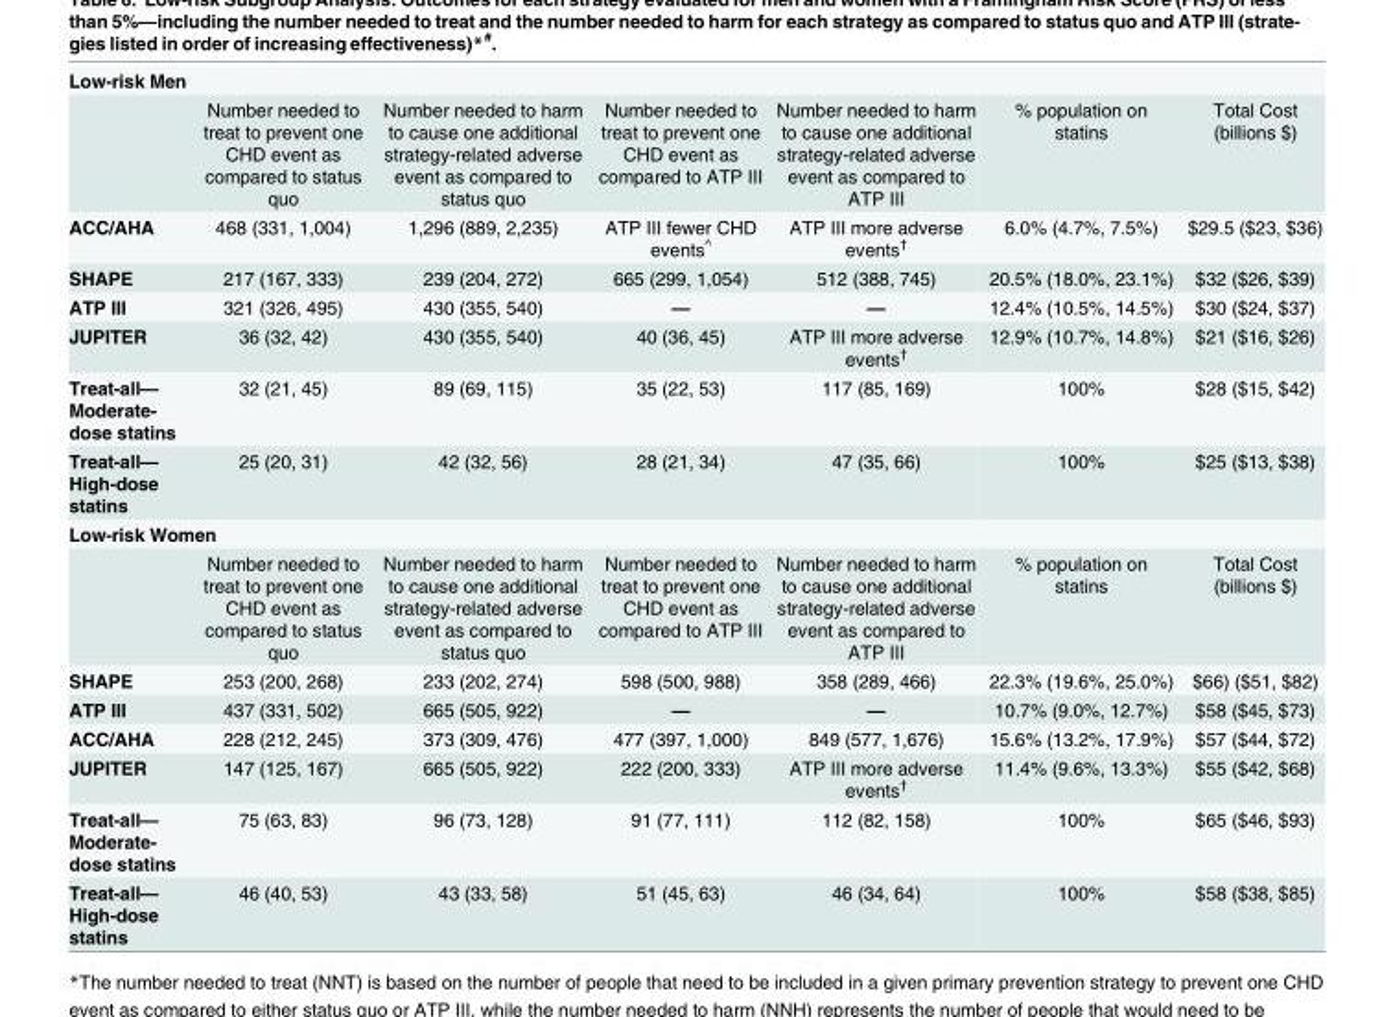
<table><tbody><tr><td colspan="7">Low-risk Men</td></tr><tr><td></td><td>Number needed to treat to prevent one CHD event as compared to status quo</td><td>Number needed to harm to cause one additional strategy-related adverse event as compared to status quo</td><td>Number needed to treat to prevent one CHD event as compared to ATP III</td><td>Number needed to harm to cause one additional strategy-related adverse event as compared to ATP III</td><td>% population on statins</td><td>Total Cost (billions $)</td></tr><tr><td>ACC/AHA</td><td>468 (331, 1,004)</td><td>1,296 (889, 2,235)</td><td>ATP III fewer CHD events<sup>^</sup></td><td>ATP III more adverse events<sup>†</sup></td><td>6.0% (4.7%, 7.5%)</td><td>$29.5 ($23, $36)</td></tr><tr><td>SHAPE</td><td>217 (167, 333)</td><td>239 (204, 272)</td><td>665 (299, 1,054)</td><td>512 (388, 745)</td><td>20.5% (18.0%, 23.1%)</td><td>$32 ($26, $39)</td></tr><tr><td>ATP III</td><td>321 (326, 495)</td><td>430 (355, 540)</td><td>—</td><td>—</td><td>12.4% (10.5%, 14.5%)</td><td>$30 ($24, $37)</td></tr><tr><td>JUPITER</td><td>36 (32, 42)</td><td>430 (355, 540)</td><td>40 (36, 45)</td><td>ATP III more adverse events<sup>†</sup></td><td>12.9% (10.7%, 14.8%)</td><td>$21 ($16, $26)</td></tr><tr><td>Treat-all— Moderate- dose statins</td><td>32 (21, 45)</td><td>89 (69, 115)</td><td>35 (22, 53)</td><td>117 (85, 169)</td><td>100%</td><td>$28 ($15, $42)</td></tr><tr><td>Treat-all— High-dose statins</td><td>25 (20, 31)</td><td>42 (32, 56)</td><td>28 (21, 34)</td><td>47 (35, 66)</td><td>100%</td><td>$25 ($13, $38)</td></tr><tr><td colspan="7">Low-risk Women</td></tr><tr><td></td><td>Number needed to treat to prevent one CHD event as compared to status quo</td><td>Number needed to harm to cause one additional strategy-related adverse event as compared to status quo</td><td>Number needed to treat to prevent one CHD event as compared to ATP III</td><td>Number needed to harm to cause one additional strategy-related adverse event as compared to ATP III</td><td>% population on statins</td><td>Total Cost (billions $)</td></tr><tr><td>SHAPE</td><td>253 (200, 268)</td><td>233 (202, 274)</td><td>598 (500, 988)</td><td>358 (289, 466)</td><td>22.3% (19.6%, 25.0%)</td><td>$66) ($51, $82)</td></tr><tr><td>ATP III</td><td>437 (331, 502)</td><td>665 (505, 922)</td><td>—</td><td>—</td><td>10.7% (9.0%, 12.7%)</td><td>$58 ($45, $73)</td></tr><tr><td>ACC/AHA</td><td>228 (212, 245)</td><td>373 (309, 476)</td><td>477 (397, 1,000)</td><td>849 (577, 1,676)</td><td>15.6% (13.2%, 17.9%)</td><td>$57 ($44, $72)</td></tr><tr><td>JUPITER</td><td>147 (125, 167)</td><td>665 (505, 922)</td><td>222 (200, 333)</td><td>ATP III more adverse events<sup>†</sup></td><td>11.4% (9.6%, 13.3%)</td><td>$55 ($42, $68)</td></tr><tr><td>Treat-all— Moderate- dose statins</td><td>75 (63, 83)</td><td>96 (73, 128)</td><td>91 (77, 111)</td><td>112 (82, 158)</td><td>100%</td><td>$65 ($46, $93)</td></tr><tr><td>Treat-all— High-dose statins</td><td>46 (40, 53)</td><td>43 (33, 58)</td><td>51 (45, 63)</td><td>46 (34, 64)</td><td>100%</td><td>$58 ($38, $85)</td></tr></tbody></table>